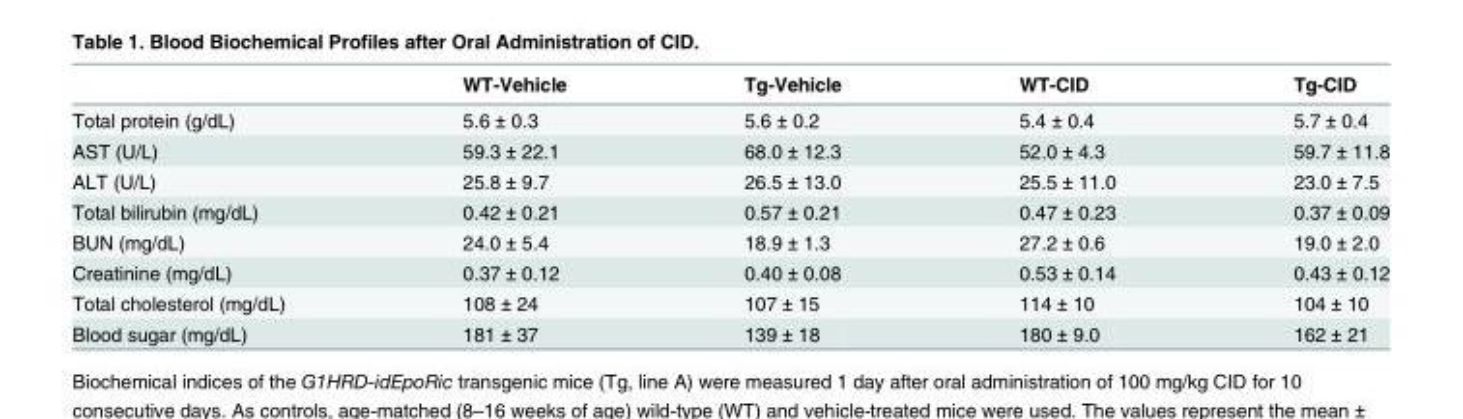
<table><thead><tr><td></td><td>WT-Vehicle</td><td>Tg-Vehicle</td><td>WT-CID</td><td>Tg-CID</td></tr></thead><tbody><tr><td>Total protein (g/dL)</td><td>5.6 ± 0.3</td><td>5.6 ± 0.2</td><td>5.4 ± 0.4</td><td>5.7 ± 0.4</td></tr><tr><td>AST (U/L)</td><td>59.3 ± 22.1</td><td>68.0 ± 12.3</td><td>52.0 ± 4.3</td><td>59.7 ± 11.8</td></tr><tr><td>ALT (U/L)</td><td>25.8 ± 9.7</td><td>26.5 ± 13.0</td><td>25.5 ± 11.0</td><td>23.0 ± 7.5</td></tr><tr><td>Total bilirubin (mg/dL)</td><td>0.42 ± 0.21</td><td>0.57 ± 0.21</td><td>0.47 ± 0.23</td><td>0.37 ± 0.09</td></tr><tr><td>BUN (mg/dL)</td><td>24.0 ± 5.4</td><td>18.9 ± 1.3</td><td>27.2 ± 0.6</td><td>19.0 ± 2.0</td></tr><tr><td>Creatinine (mg/dL)</td><td>0.37 ± 0.12</td><td>0.40 ± 0.08</td><td>0.53 ± 0.14</td><td>0.43 ± 0.12</td></tr><tr><td>Total cholesterol (mg/dL)</td><td>108 ± 24</td><td>107 ± 15</td><td>114 ± 10</td><td>104 ± 10</td></tr><tr><td>Blood sugar (mg/dL)</td><td>181 ± 37</td><td>139 ± 18</td><td>180 ± 9.0</td><td>162 ± 21</td></tr></tbody></table>